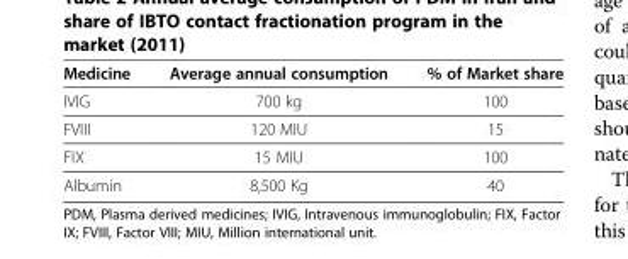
<table><thead><tr><td>Medicine</td><td>Average annual consumption</td><td>% of Market share</td></tr></thead><tbody><tr><td>IVIG</td><td>700 kg</td><td>100</td></tr><tr><td>FVIII</td><td>120 MIU</td><td>15</td></tr><tr><td>FIX</td><td>15 MIU</td><td>100</td></tr><tr><td>Albumin</td><td>8,500 Kg</td><td>40</td></tr></tbody></table>